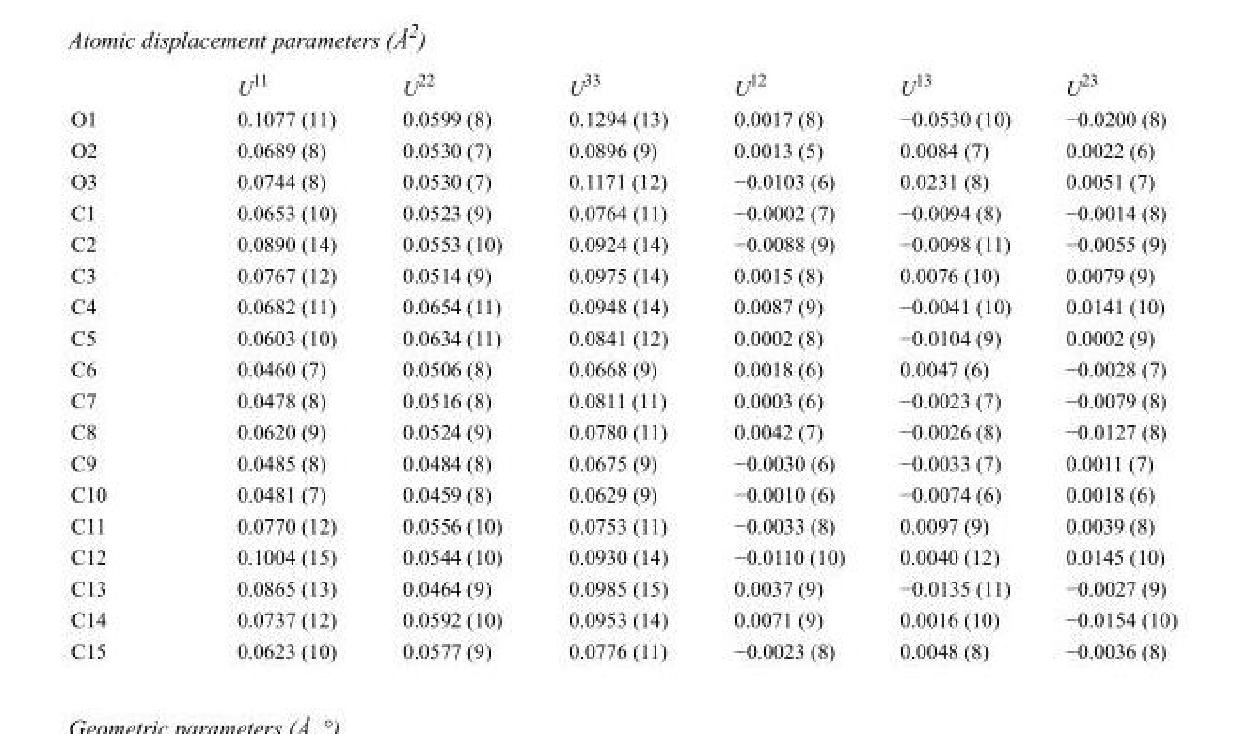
<table><thead><tr><td></td><td>U<sup>11</sup></td><td>U<sup>22</sup></td><td>U<sup>33</sup></td><td>U<sup>12</sup></td><td>U<sup>13</sup></td><td>U<sup>23</sup></td></tr></thead><tbody><tr><td>O1</td><td>0.1077 (11)</td><td>0.0599 (8)</td><td>0.1294 (13)</td><td>0.0017 (8)</td><td>−0.0530 (10)</td><td>−0.0200 (8)</td></tr><tr><td>O2</td><td>0.0689 (8)</td><td>0.0530 (7)</td><td>0.0896 (9)</td><td>0.0013 (5)</td><td>0.0084 (7)</td><td>0.0022 (6)</td></tr><tr><td>O3</td><td>0.0744 (8)</td><td>0.0530 (7)</td><td>0.1171 (12)</td><td>−0.0103 (6)</td><td>0.0231 (8)</td><td>0.0051 (7)</td></tr><tr><td>C1</td><td>0.0653 (10)</td><td>0.0523 (9)</td><td>0.0764 (11)</td><td>−0.0002 (7)</td><td>−0.0094 (8)</td><td>−0.0014 (8)</td></tr><tr><td>C2</td><td>0.0890 (14)</td><td>0.0553 (10)</td><td>0.0924 (14)</td><td>−0.0088 (9)</td><td>−0.0098 (11)</td><td>−0.0055 (9)</td></tr><tr><td>C3</td><td>0.0767 (12)</td><td>0.0514 (9)</td><td>0.0975 (14)</td><td>0.0015 (8)</td><td>0.0076 (10)</td><td>0.0079 (9)</td></tr><tr><td>C4</td><td>0.0682 (11)</td><td>0.0654 (11)</td><td>0.0948 (14)</td><td>0.0087 (9)</td><td>−0.0041 (10)</td><td>0.0141 (10)</td></tr><tr><td>C5</td><td>0.0603 (10)</td><td>0.0634 (11)</td><td>0.0841 (12)</td><td>0.0002 (8)</td><td>−0.0104 (9)</td><td>0.0002 (9)</td></tr><tr><td>C6</td><td>0.0460 (7)</td><td>0.0506 (8)</td><td>0.0668 (9)</td><td>0.0018 (6)</td><td>0.0047 (6)</td><td>−0.0028 (7)</td></tr><tr><td>C7</td><td>0.0478 (8)</td><td>0.0516 (8)</td><td>0.0811 (11)</td><td>0.0003 (6)</td><td>−0.0023 (7)</td><td>−0.0079 (8)</td></tr><tr><td>C8</td><td>0.0620 (9)</td><td>0.0524 (9)</td><td>0.0780 (11)</td><td>0.0042 (7)</td><td>−0.0026 (8)</td><td>−0.0127 (8)</td></tr><tr><td>C9</td><td>0.0485 (8)</td><td>0.0484 (8)</td><td>0.0675 (9)</td><td>−0.0030 (6)</td><td>−0.0033 (7)</td><td>0.0011 (7)</td></tr><tr><td>C10</td><td>0.0481 (7)</td><td>0.0459 (8)</td><td>0.0629 (9)</td><td>−0.0010 (6)</td><td>−0.0074 (6)</td><td>0.0018 (6)</td></tr><tr><td>C11</td><td>0.0770 (12)</td><td>0.0556 (10)</td><td>0.0753 (11)</td><td>−0.0033 (8)</td><td>0.0097 (9)</td><td>0.0039 (8)</td></tr><tr><td>C12</td><td>0.1004 (15)</td><td>0.0544 (10)</td><td>0.0930 (14)</td><td>−0.0110 (10)</td><td>0.0040 (12)</td><td>0.0145 (10)</td></tr><tr><td>C13</td><td>0.0865 (13)</td><td>0.0464 (9)</td><td>0.0985 (15)</td><td>0.0037 (9)</td><td>−0.0135 (11)</td><td>−0.0027 (9)</td></tr><tr><td>C14</td><td>0.0737 (12)</td><td>0.0592 (10)</td><td>0.0953 (14)</td><td>0.0071 (9)</td><td>0.0016 (10)</td><td>−0.0154 (10)</td></tr><tr><td>C15</td><td>0.0623 (10)</td><td>0.0577 (9)</td><td>0.0776 (11)</td><td>−0.0023 (8)</td><td>0.0048 (8)</td><td>−0.0036 (8)</td></tr></tbody></table>